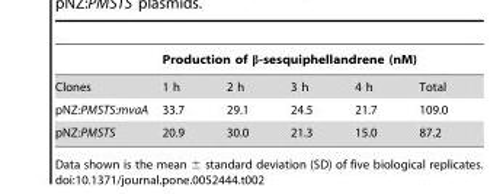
<table><thead><tr><td rowspan="2">Clones</td><td colspan="5">Production of β-sesquiphellandrene (nM)</td></tr><tr><td>1 h</td><td>2 h</td><td>3 h</td><td>4 h</td><td>Total</td></tr></thead><tbody><tr><td>pNZ:PMSTS:mvaA</td><td>33.7</td><td>29.1</td><td>24.5</td><td>21.7</td><td>109.0</td></tr><tr><td>pNZ:PMSTS</td><td>20.9</td><td>30.0</td><td>21.3</td><td>15.0</td><td>87.2</td></tr></tbody></table>